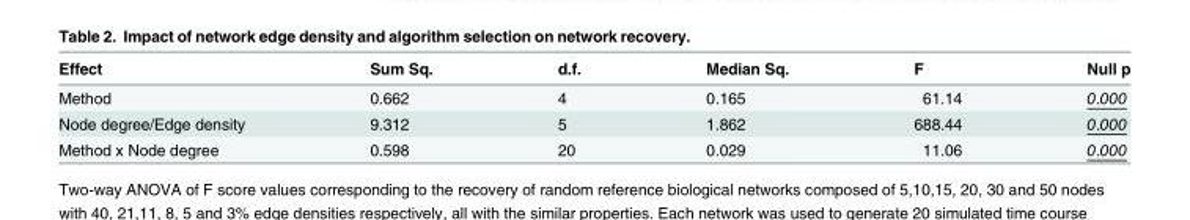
<table><thead><tr><td>Effect</td><td>Sum Sq.</td><td>d.f.</td><td>Median Sq.</td><td>F</td><td>Null p</td></tr></thead><tbody><tr><td>Method</td><td>0.662</td><td>4</td><td>0.165</td><td>61.14</td><td>0.000</td></tr><tr><td>Node degree/Edge density</td><td>9.312</td><td>5</td><td>1.862</td><td>688.44</td><td>0.000</td></tr><tr><td>Method x Node degree</td><td>0.598</td><td>20</td><td>0.029</td><td>11.06</td><td>0.000</td></tr></tbody></table>